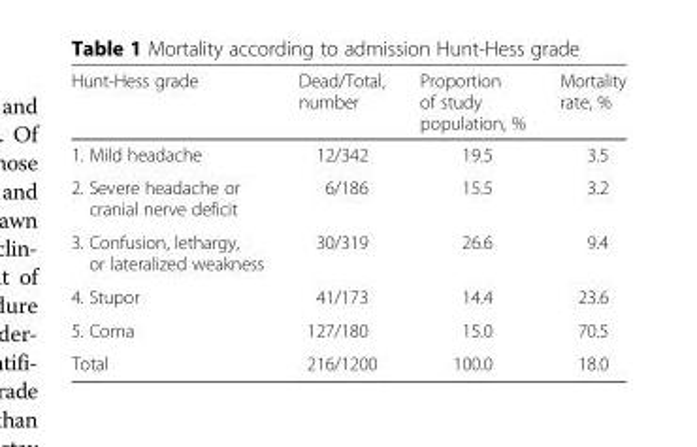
<table><thead><tr><td>Hunt-Hess grade</td><td>Dead/Total, number</td><td>Proportion of study population, %</td><td>Mortality rate, %</td></tr></thead><tbody><tr><td>1. Mild headache</td><td>12/342</td><td>19.5</td><td>3.5</td></tr><tr><td>2. Severe headache or cranial nerve deficit</td><td>6/186</td><td>15.5</td><td>3.2</td></tr><tr><td>3. Confusion, lethargy, or lateralized weakness</td><td>30/319</td><td>26.6</td><td>9.4</td></tr><tr><td>4. Stupor</td><td>41/173</td><td>14.4</td><td>23.6</td></tr><tr><td>5. Coma</td><td>127/180</td><td>15.0</td><td>70.5</td></tr><tr><td>Total</td><td>216/1200</td><td>100.0</td><td>18.0</td></tr></tbody></table>